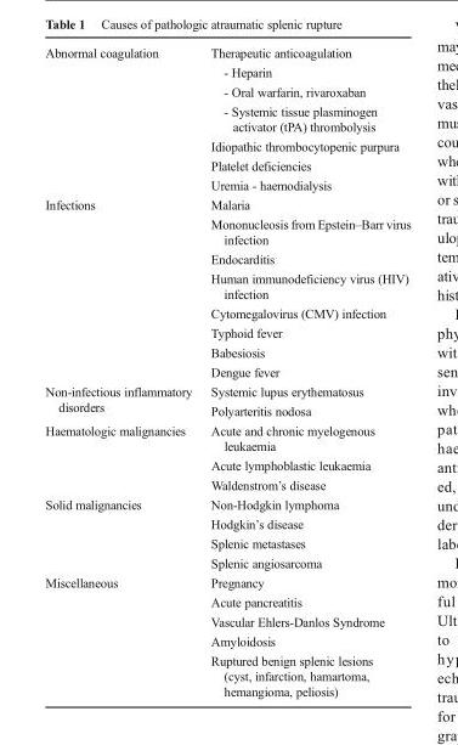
<table><tbody><tr><td rowspan="7">Abnormal coagulation</td><td>Therapeutic anticoagulation</td></tr><tr><td>- Heparin</td></tr><tr><td>- Oral warfarin, rivaroxaban</td></tr><tr><td>- Systemic tissue plasminogen activator (tPA) thrombolysis</td></tr><tr><td>Idiopathic thrombocytopenic purpura</td></tr><tr><td>Platelet deficiencies</td></tr><tr><td>Uremia - haemodialysis</td></tr><tr><td rowspan="8">Infections</td><td>Malaria</td></tr><tr><td>Mononucleosis from Epstein–Barr virus infection</td></tr><tr><td>Endocarditis</td></tr><tr><td>Human immunodeficiency virus (HIV) infection</td></tr><tr><td>Cytomegalovirus (CMV) infection</td></tr><tr><td>Typhoid fever</td></tr><tr><td>Babesiosis</td></tr><tr><td>Dengue fever</td></tr><tr><td rowspan="2">Non-infectious inflammatory disorders</td><td>Systemic lupus erythematosus</td></tr><tr><td>Polyarteritis nodosa</td></tr><tr><td rowspan="3">Haematologic malignancies</td><td>Acute and chronic myelogenous leukaemia</td></tr><tr><td>Acute lymphoblastic leukaemia</td></tr><tr><td>Waldenstrom’s disease</td></tr><tr><td rowspan="4">Solid malignancies</td><td>Non-Hodgkin lymphoma</td></tr><tr><td>Hodgkin’s disease</td></tr><tr><td>Splenic metastases</td></tr><tr><td>Splenic angiosarcoma</td></tr><tr><td rowspan="5">Miscellaneous</td><td>Pregnancy</td></tr><tr><td>Acute pancreatitis</td></tr><tr><td>Vascular Ehlers-Danlos Syndrome</td></tr><tr><td>Amyloidosis</td></tr><tr><td>Ruptured benign splenic lesions (cyst, infarction, hamartoma, hemangioma, peliosis)</td></tr></tbody></table>